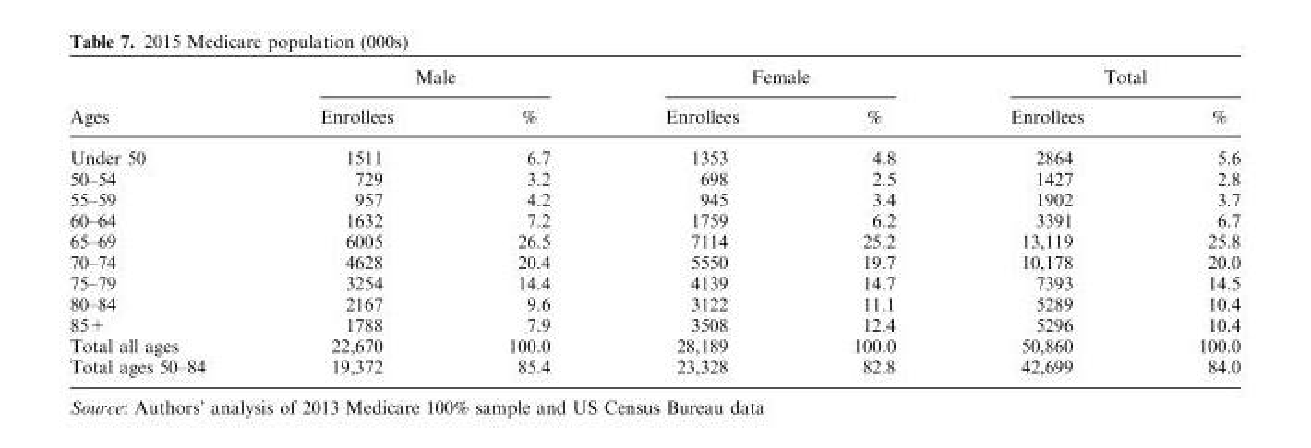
<table><thead><tr><td rowspan="2">Ages</td><td colspan="2">Male</td><td colspan="2">Female</td><td colspan="2">Total</td></tr><tr><td>Enrollees</td><td>%</td><td>Enrollees</td><td>%</td><td>Enrollees</td><td>%</td></tr></thead><tbody><tr><td>Under 50</td><td>1511</td><td>6.7</td><td>1353</td><td>4.8</td><td>2864</td><td>5.6</td></tr><tr><td>50–54</td><td>729</td><td>3.2</td><td>698</td><td>2.5</td><td>1427</td><td>2.8</td></tr><tr><td>55–59</td><td>957</td><td>4.2</td><td>945</td><td>3.4</td><td>1902</td><td>3.7</td></tr><tr><td>60–64</td><td>1632</td><td>7.2</td><td>1759</td><td>6.2</td><td>3391</td><td>6.7</td></tr><tr><td>65–69</td><td>6005</td><td>26.5</td><td>7114</td><td>25.2</td><td>13,119</td><td>25.8</td></tr><tr><td>70–74</td><td>4628</td><td>20.4</td><td>5550</td><td>19.7</td><td>10,178</td><td>20.0</td></tr><tr><td>75–79</td><td>3254</td><td>14.4</td><td>4139</td><td>14.7</td><td>7393</td><td>14.5</td></tr><tr><td>80–84</td><td>2167</td><td>9.6</td><td>3122</td><td>11.1</td><td>5289</td><td>10.4</td></tr><tr><td>85+</td><td>1788</td><td>7.9</td><td>3508</td><td>12.4</td><td>5296</td><td>10.4</td></tr><tr><td>Total all ages</td><td>22,670</td><td>100.0</td><td>28,189</td><td>100.0</td><td>50,860</td><td>100.0</td></tr><tr><td>Total ages 50–84</td><td>19,372</td><td>85.4</td><td>23,328</td><td>82.8</td><td>42,699</td><td>84.0</td></tr></tbody></table>